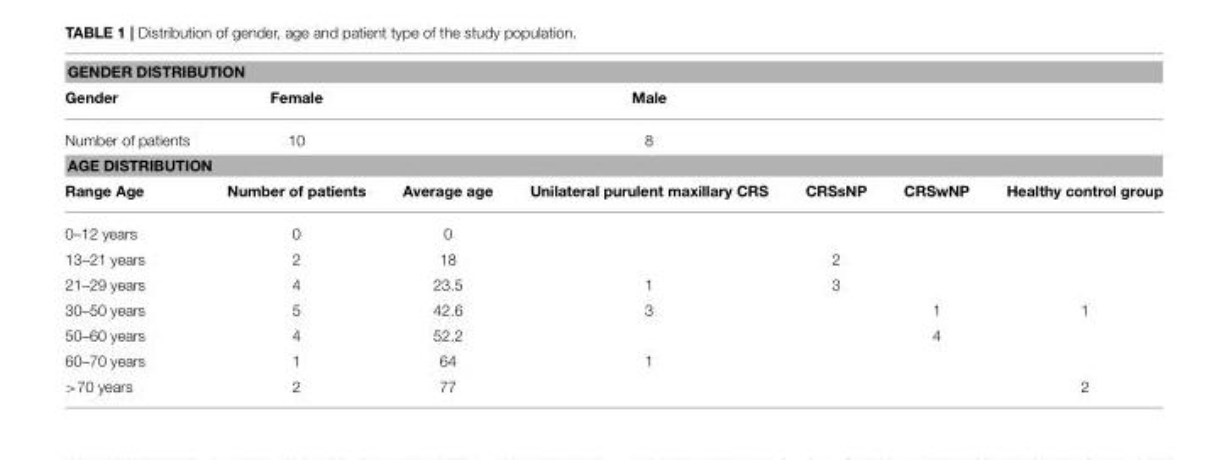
<table><thead><tr><td colspan="7">GENDER DISTRIBUTION</td></tr><tr><td>Gender</td><td>Female</td><td></td><td>Male</td><td></td><td></td><td></td></tr></thead><tbody><tr><td>Number of patients</td><td>10</td><td></td><td>8</td><td></td><td></td><td></td></tr><tr><td colspan="7">AGE DISTRIBUTION</td></tr><tr><td>Range Age</td><td>Number of patients</td><td>Average age</td><td>Unilateral purulent maxillary CRS</td><td>CRSsNP</td><td>CRSwNP</td><td>Healthy control group</td></tr><tr><td>0–12 years</td><td>0</td><td>0</td><td></td><td></td><td></td><td></td></tr><tr><td>13–21 years</td><td>2</td><td>18</td><td></td><td>2</td><td></td><td></td></tr><tr><td>21–29 years</td><td>4</td><td>23.5</td><td>1</td><td>3</td><td></td><td></td></tr><tr><td>30–50 years</td><td>5</td><td>42.6</td><td>3</td><td></td><td>1</td><td>1</td></tr><tr><td>50–60 years</td><td>4</td><td>52.2</td><td></td><td></td><td>4</td><td></td></tr><tr><td>60–70 years</td><td>1</td><td>64</td><td>1</td><td></td><td></td><td></td></tr><tr><td>&gt;70 years</td><td>2</td><td>77</td><td></td><td></td><td></td><td>2</td></tr></tbody></table>